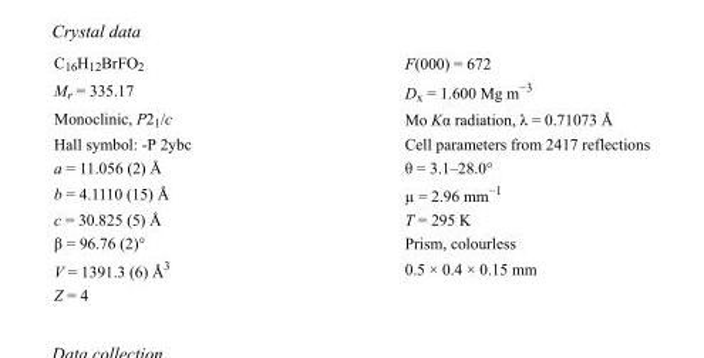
<table><tbody><tr><td>C<sub>16</sub>H<sub>12</sub>BrFO<sub>2</sub></td><td>F(000) = 672</td></tr><tr><td>M<sub>r</sub> = 335.17</td><td>D<sub>x</sub> = 1.600 Mg m<sup>−3</sup></td></tr><tr><td>Monoclinic, P2<sub>1</sub>/c</td><td>Mo Kα radiation, λ = 0.71073 Å</td></tr><tr><td>Hall symbol: -P 2ybc</td><td>Cell parameters from 2417 reflections</td></tr><tr><td>a = 11.056 (2) Å</td><td>θ = 3.1–28.0°</td></tr><tr><td>b = 4.1110 (15) Å</td><td>µ = 2.96 mm<sup>−1</sup></td></tr><tr><td>c = 30.825 (5) Å</td><td>T = 295 K</td></tr><tr><td>β = 96.76 (2)°</td><td>Prism, colourless</td></tr><tr><td>V = 1391.3 (6) Å<sup>3</sup></td><td>0.5 × 0.4 × 0.15 mm</td></tr><tr><td>Z = 4</td><td></td></tr></tbody></table>